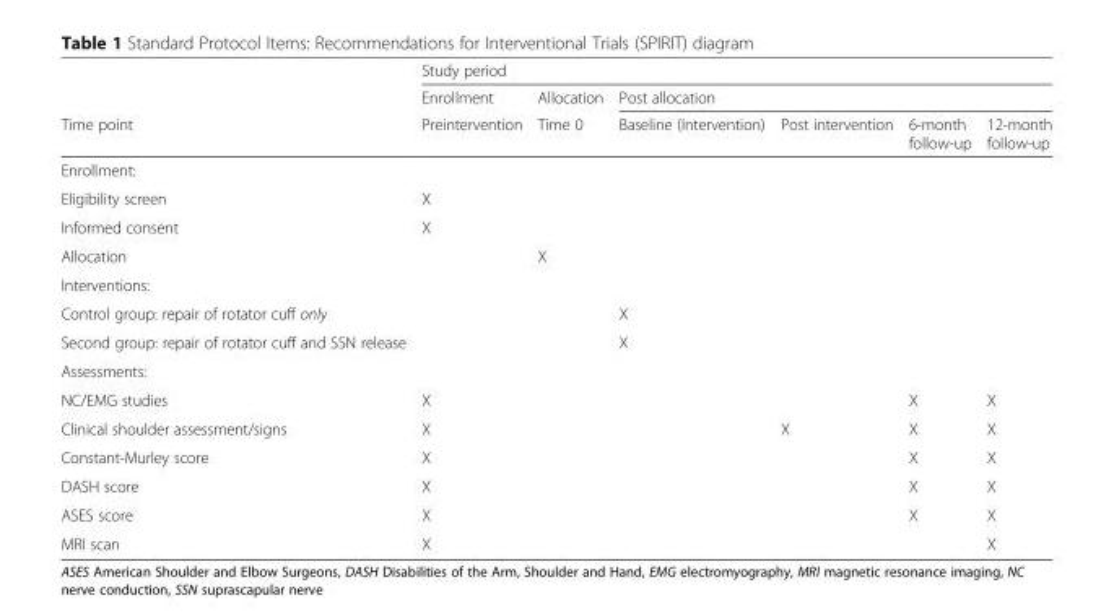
<table><thead><tr><td rowspan="3">Time point</td><td colspan="6">Study period</td></tr><tr><td rowspan="2">Enrollment Preintervention</td><td rowspan="2">Allocation Time 0</td><td colspan="4">Post allocation</td></tr><tr><td>Baseline (Intervention)</td><td>Post intervention</td><td>6-month follow-up</td><td>12-month follow-up</td></tr></thead><tbody><tr><td colspan="7">Enrollment:</td></tr><tr><td>Eligibility screen</td><td>X</td><td></td><td></td><td></td><td></td><td></td></tr><tr><td>Informed consent</td><td>X</td><td></td><td></td><td></td><td></td><td></td></tr><tr><td>Allocation</td><td></td><td>X</td><td></td><td></td><td></td><td></td></tr><tr><td colspan="7">Interventions:</td></tr><tr><td>Control group: repair of rotator cuff only</td><td></td><td></td><td>X</td><td></td><td></td><td></td></tr><tr><td>Second group: repair of rotator cuff and SSN release</td><td></td><td></td><td>X</td><td></td><td></td><td></td></tr><tr><td colspan="7">Assessments:</td></tr><tr><td>NC/EMG studies</td><td>X</td><td></td><td></td><td></td><td>X</td><td>X</td></tr><tr><td>Clinical shoulder assessment/signs</td><td>X</td><td></td><td></td><td>X</td><td>X</td><td>X</td></tr><tr><td>Constant-Murley score</td><td>X</td><td></td><td></td><td></td><td>X</td><td>X</td></tr><tr><td>DASH score</td><td>X</td><td></td><td></td><td></td><td>X</td><td>X</td></tr><tr><td>ASES score</td><td>X</td><td></td><td></td><td></td><td>X</td><td>X</td></tr><tr><td>MRI scan</td><td>X</td><td></td><td></td><td></td><td></td><td>X</td></tr></tbody></table>